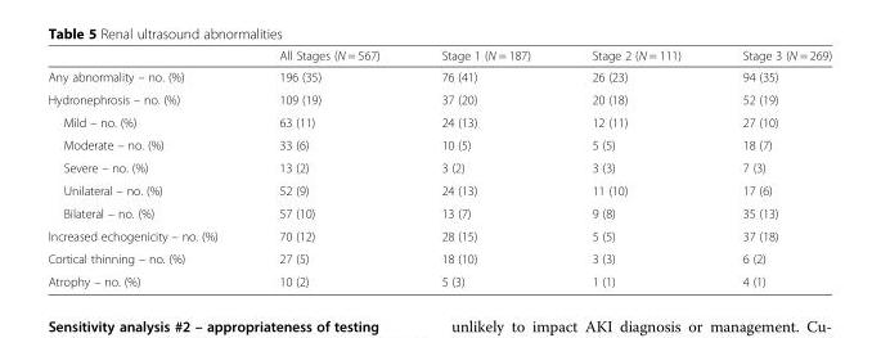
<table><thead><tr><td></td><td>All Stages (N = 567)</td><td>Stage 1 (N = 187)</td><td>Stage 2 (N = 111)</td><td>Stage 3 (N = 269)</td></tr></thead><tbody><tr><td>Any abnormality – no. (%)</td><td>196 (35)</td><td>76 (41)</td><td>26 (23)</td><td>94 (35)</td></tr><tr><td>Hydronephrosis – no. (%)</td><td>109 (19)</td><td>37 (20)</td><td>20 (18)</td><td>52 (19)</td></tr><tr><td>Mild – no. (%)</td><td>63 (11)</td><td>24 (13)</td><td>12 (11)</td><td>27 (10)</td></tr><tr><td>Moderate – no. (%)</td><td>33 (6)</td><td>10 (5)</td><td>5 (5)</td><td>18 (7)</td></tr><tr><td>Severe – no. (%)</td><td>13 (2)</td><td>3 (2)</td><td>3 (3)</td><td>7 (3)</td></tr><tr><td>Unilateral – no. (%)</td><td>52 (9)</td><td>24 (13)</td><td>11 (10)</td><td>17 (6)</td></tr><tr><td>Bilateral – no. (%)</td><td>57 (10)</td><td>13 (7)</td><td>9 (8)</td><td>35 (13)</td></tr><tr><td>Increased echogenicity – no. (%)</td><td>70 (12)</td><td>28 (15)</td><td>5 (5)</td><td>37 (18)</td></tr><tr><td>Cortical thinning – no. (%)</td><td>27 (5)</td><td>18 (10)</td><td>3 (3)</td><td>6 (2)</td></tr><tr><td>Atrophy – no. (%)</td><td>10 (2)</td><td>5 (3)</td><td>1 (1)</td><td>4 (1)</td></tr></tbody></table>